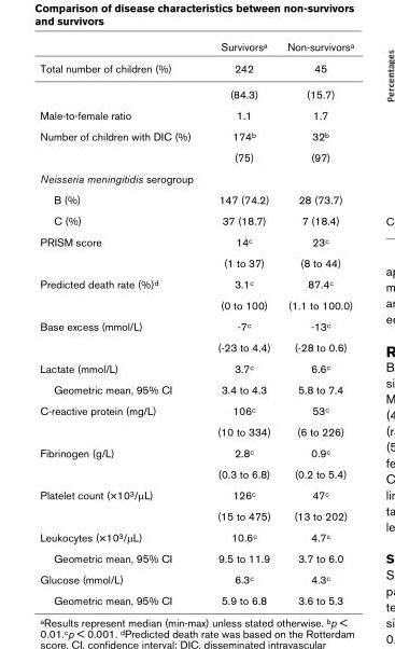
<table><thead><tr><td></td><td>Survivors<sup>a</sup></td><td>Non-survivors<sup>a</sup></td></tr></thead><tbody><tr><td rowspan="2">Total number of children (%)</td><td>242</td><td>45</td></tr><tr><td>(84.3)</td><td>(15.7)</td></tr><tr><td>Male-to-female ratio</td><td>1.1</td><td>1.7</td></tr><tr><td rowspan="2">Number of children with DIC (%)</td><td>174<sup>b</sup></td><td>32<sup>b</sup></td></tr><tr><td>(75)</td><td>(97)</td></tr><tr><td colspan="3">Neisseria meningitidis serogroup</td></tr><tr><td>B (%)</td><td>147 (74.2)</td><td>28 (73.7)</td></tr><tr><td>C (%)</td><td>37 (18.7)</td><td>7 (18.4)</td></tr><tr><td rowspan="2">PRISM score</td><td>14<sup>c</sup></td><td>23<sup>c</sup></td></tr><tr><td>(1 to 37)</td><td>(8 to 44)</td></tr><tr><td rowspan="2">Predicted death rate (%)<sup>d</sup></td><td>3.1<sup>c</sup></td><td>87.4<sup>c</sup></td></tr><tr><td>(0 to 100)</td><td>(1.1 to 100.0)</td></tr><tr><td rowspan="2">Base excess (mmol/L)</td><td>-7<sup>c</sup></td><td>-13<sup>c</sup></td></tr><tr><td>(-23 to 4.4)</td><td>(-28 to 0.6)</td></tr><tr><td>Lactate (mmol/L)</td><td>3.7<sup>c</sup></td><td>6.6<sup>c</sup></td></tr><tr><td>Geometric mean, 95% CI</td><td>3.4 to 4.3</td><td>5.8 to 7.4</td></tr><tr><td rowspan="2">C-reactive protein (mg/L)</td><td>106<sup>c</sup></td><td>53<sup>c</sup></td></tr><tr><td>(10 to 334)</td><td>(6 to 226)</td></tr><tr><td rowspan="2">Fibrinogen (g/L)</td><td>2.8<sup>c</sup></td><td>0.9<sup>c</sup></td></tr><tr><td>(0.3 to 6.8)</td><td>(0.2 to 5.4)</td></tr><tr><td rowspan="2">Platelet count (×10<sup>3</sup>/μL)</td><td>126<sup>c</sup></td><td>47<sup>c</sup></td></tr><tr><td>(15 to 475)</td><td>(13 to 202)</td></tr><tr><td>Leukocytes (×10<sup>3</sup>/μL)</td><td>10.6<sup>c</sup></td><td>4.7<sup>c</sup></td></tr><tr><td>Geometric mean, 95% CI</td><td>9.5 to 11.9</td><td>3.7 to 6.0</td></tr><tr><td>Glucose (mmol/L)</td><td>6.3<sup>c</sup></td><td>4.3<sup>c</sup></td></tr><tr><td>Geometric mean, 95% CI</td><td>5.9 to 6.8</td><td>3.6 to 5.3</td></tr></tbody></table>